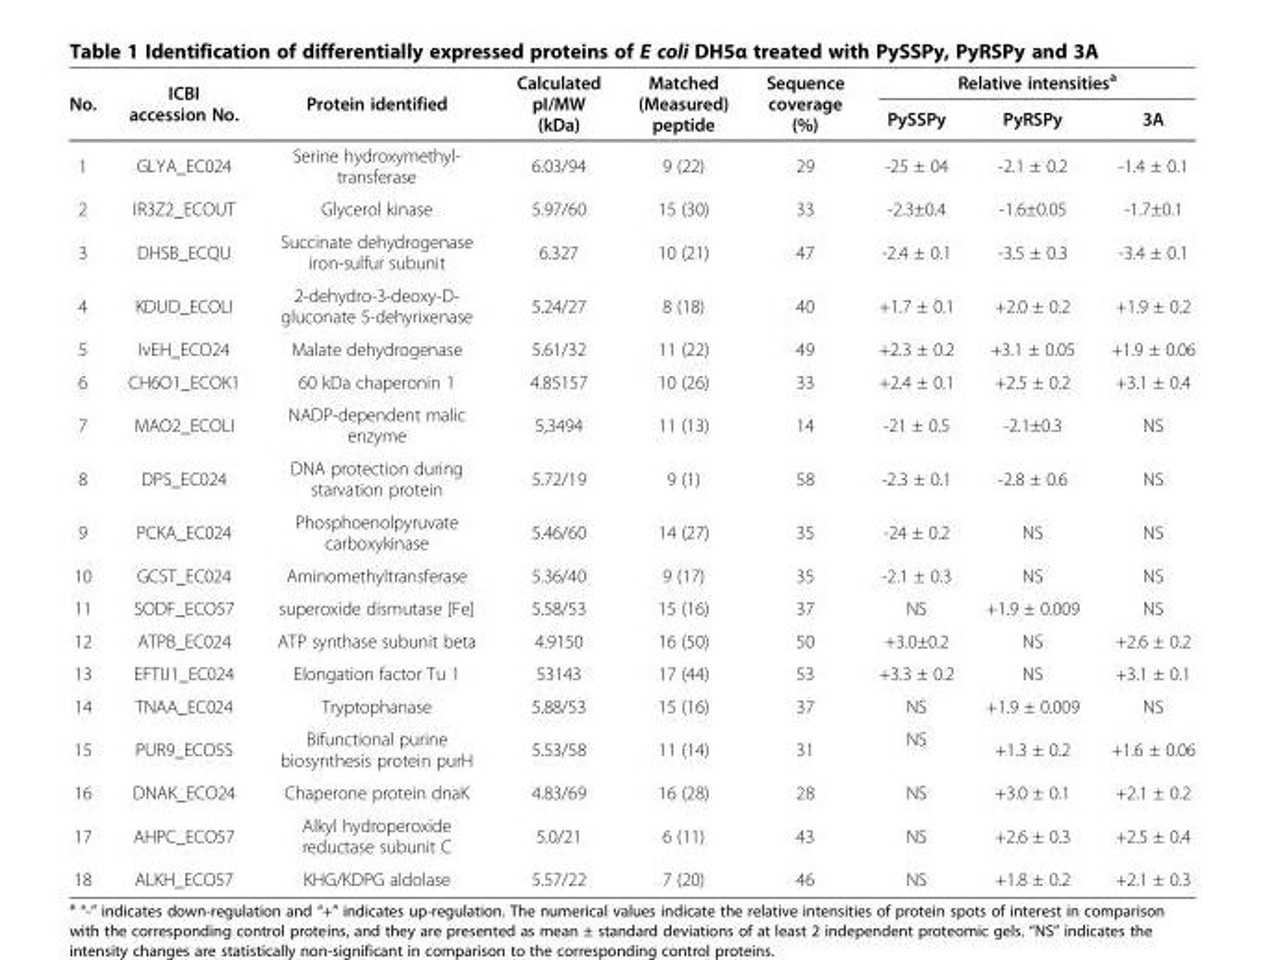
<table><thead><tr><td rowspan="2">No.</td><td rowspan="2">ICBI accession No.</td><td rowspan="2">Protein identified</td><td rowspan="2">Calculated pI/MW (kDa)</td><td rowspan="2">Matched (Measured) peptide</td><td rowspan="2">Sequence coverage (%)</td><td colspan="3">Relative intensities<sup>a</sup></td></tr><tr><td>PySSPy</td><td>PyRSPy</td><td>3A</td></tr></thead><tbody><tr><td>1</td><td>GLYA_EC024</td><td>Serine hydroxymethyl- transferase</td><td>6.03/94</td><td>9 (22)</td><td>29</td><td>-25 ± 04</td><td>-2.1 ± 0.2</td><td>-1.4 ± 0.1</td></tr><tr><td>2</td><td>IR3Z2_ECOUT</td><td>Glycerol kinase</td><td>5.97/60</td><td>15 (30)</td><td>33</td><td>-2.3±0.4</td><td>-1.6±0.05</td><td>-1.7±0.1</td></tr><tr><td>3</td><td>DHSB_ECQU</td><td>Succinate dehydrogenase iron-sulfur subunit</td><td>6.327</td><td>10 (21)</td><td>47</td><td>-2.4 ± 0.1</td><td>-3.5 ± 0.3</td><td>-3.4 ± 0.1</td></tr><tr><td>4</td><td>KDUD_ECOLI</td><td>2-dehydro-3-deoxy-D- gluconate 5-dehyrixenase</td><td>5.24/27</td><td>8 (18)</td><td>40</td><td>+1.7 ± 0.1</td><td>+2.0 ± 0.2</td><td>+1.9 ± 0.2</td></tr><tr><td>5</td><td>IvEH_ECO24</td><td>Malate dehydrogenase</td><td>5.61/32</td><td>11 (22)</td><td>49</td><td>+2.3 ± 0.2</td><td>+3.1 ± 0.05</td><td>+1.9 ± 0.06</td></tr><tr><td>6</td><td>CH6O1_ECOK1</td><td>60 kDa chaperonin 1</td><td>4.85157</td><td>10 (26)</td><td>33</td><td>+2.4 ± 0.1</td><td>+2.5 ± 0.2</td><td>+3.1 ± 0.4</td></tr><tr><td>7</td><td>MAO2_ECOLI</td><td>NADP-dependent malic enzyme</td><td>5,3494</td><td>11 (13)</td><td>14</td><td>-21 ± 0.5</td><td>-2.1±0.3</td><td>NS</td></tr><tr><td>8</td><td>DPS_EC024</td><td>DNA protection during starvation protein</td><td>5.72/19</td><td>9 (1)</td><td>58</td><td>-2.3 ± 0.1</td><td>-2.8 ± 0.6</td><td>NS</td></tr><tr><td>9</td><td>PCKA_EC024</td><td>Phosphoenolpyruvate carboxykinase</td><td>5.46/60</td><td>14 (27)</td><td>35</td><td>-24 ± 0.2</td><td>NS</td><td>NS</td></tr><tr><td>10</td><td>GCST_EC024</td><td>Aminomethyltransferase</td><td>5.36/40</td><td>9 (17)</td><td>35</td><td>-2.1 ± 0.3</td><td>NS</td><td>NS</td></tr><tr><td>11</td><td>SODF_ECO57</td><td>superoxide dismutase [Fe]</td><td>5.58/53</td><td>15 (16)</td><td>37</td><td>NS</td><td>+1.9 ± 0.009</td><td>NS</td></tr><tr><td>12</td><td>ATPB_EC024</td><td>ATP synthase subunit beta</td><td>4.9150</td><td>16 (50)</td><td>50</td><td>+3.0±0.2</td><td>NS</td><td>+2.6 ± 0.2</td></tr><tr><td>13</td><td>EFTIJ1_EC024</td><td>Elongation factor Tu 1</td><td>53143</td><td>17 (44)</td><td>53</td><td>+3.3 ± 0.2</td><td>NS</td><td>+3.1 ± 0.1</td></tr><tr><td>14</td><td>TNAA_EC024</td><td>Tryptophanase</td><td>5.88/53</td><td>15 (16)</td><td>37</td><td>NS</td><td>+1.9 ± 0.009</td><td>NS</td></tr><tr><td>15</td><td>PUR9_ECO5S</td><td>Bifunctional purine biosynthesis protein purH</td><td>5.53/58</td><td>11 (14)</td><td>31</td><td>NS</td><td>+1.3 ± 0.2</td><td>+1.6 ± 0.06</td></tr><tr><td>16</td><td>DNAK_ECO24</td><td>Chaperone protein dnaK</td><td>4.83/69</td><td>16 (28)</td><td>28</td><td>NS</td><td>+3.0 ± 0.1</td><td>+2.1 ± 0.2</td></tr><tr><td>17</td><td>AHPC_ECO57</td><td>Alkyl hydroperoxide reductase subunit C</td><td>5.0/21</td><td>6 (11)</td><td>43</td><td>NS</td><td>+2.6 ± 0.3</td><td>+2.5 ± 0.4</td></tr><tr><td>18</td><td>ALKH_ECO57</td><td>KHG/KDPG aldolase</td><td>5.57/22</td><td>7 (20)</td><td>46</td><td>NS</td><td>+1.8 ± 0.2</td><td>+2.1 ± 0.3</td></tr></tbody></table>